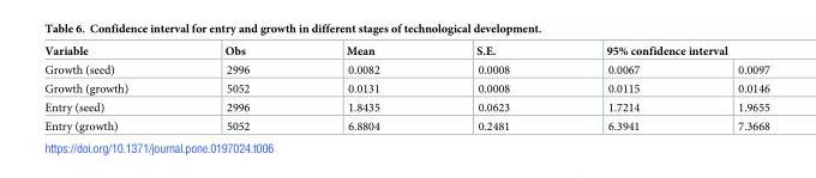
<table><thead><tr><td rowspan="2">Variable Growth (seed)</td><td rowspan="2">Obs 2996</td><td rowspan="2">Mean 0.0082</td><td rowspan="2">S.E. 0.0008</td><td colspan="2">95% confidence interval</td></tr><tr><td>0.0067</td><td>0.0097</td></tr></thead><tbody><tr><td>Growth (growth)</td><td>5052</td><td>0.0131</td><td>0.0008</td><td>0.0115</td><td>0.0146</td></tr><tr><td>Entry (seed)</td><td>2996</td><td>1.8435</td><td>0.0623</td><td>1.7214</td><td>1.9655</td></tr><tr><td>Entry (growth)</td><td>5052</td><td>6.8804</td><td>0.2481</td><td>6.3941</td><td>7.3668</td></tr></tbody></table>